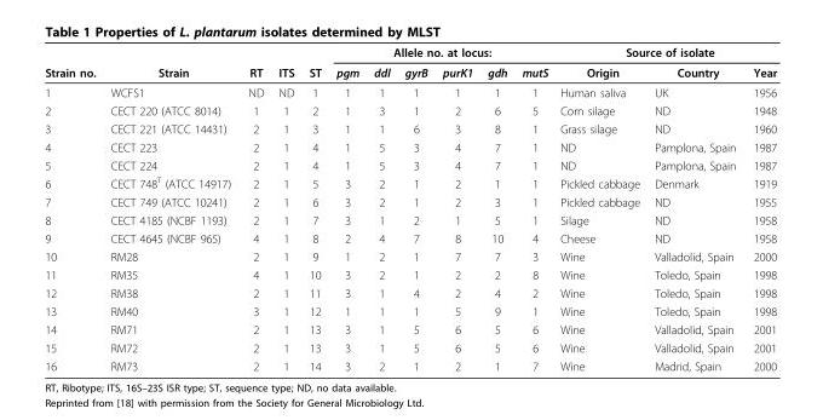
<table><thead><tr><td rowspan="2">Strain no.</td><td rowspan="2">Strain</td><td rowspan="2">RT</td><td rowspan="2">ITS</td><td rowspan="2">ST</td><td colspan="6">Allele no. at locus:</td><td colspan="3">Source of isolate</td></tr><tr><td>pgm</td><td>ddl</td><td>gyrB</td><td>purK1</td><td>gdh</td><td>mutS</td><td>Origin</td><td>Country</td><td>Year</td></tr></thead><tbody><tr><td>1</td><td>WCFS1</td><td>ND</td><td>ND</td><td>1</td><td>1</td><td>1</td><td>1</td><td>1</td><td>1</td><td>1</td><td>Human saliva</td><td>UK</td><td>1956</td></tr><tr><td>2</td><td>CECT 220 (ATCC 8014)</td><td>1</td><td>1</td><td>2</td><td>1</td><td>3</td><td>1</td><td>2</td><td>6</td><td>5</td><td>Corn silage</td><td>ND</td><td>1948</td></tr><tr><td>3</td><td>CECT 221 (ATCC 14431)</td><td>2</td><td>1</td><td>3</td><td>1</td><td>1</td><td>6</td><td>3</td><td>8</td><td>1</td><td>Grass silage</td><td>ND</td><td>1960</td></tr><tr><td>4</td><td>CECT 223</td><td>2</td><td>1</td><td>4</td><td>1</td><td>5</td><td>3</td><td>4</td><td>7</td><td>1</td><td>ND</td><td>Pamplona, Spain</td><td>1987</td></tr><tr><td>5</td><td>CECT 224</td><td>2</td><td>1</td><td>4</td><td>1</td><td>5</td><td>3</td><td>4</td><td>7</td><td>1</td><td>ND</td><td>Pamplona, Spain</td><td>1987</td></tr><tr><td>6</td><td>CECT 748<sup>T</sup> (ATCC 14917)</td><td>2</td><td>1</td><td>5</td><td>3</td><td>2</td><td>1</td><td>2</td><td>1</td><td>1</td><td>Pickled cabbage</td><td>Denmark</td><td>1919</td></tr><tr><td>7</td><td>CECT 749 (ATCC 10241)</td><td>2</td><td>1</td><td>6</td><td>3</td><td>2</td><td>1</td><td>2</td><td>3</td><td>1</td><td>Pickled cabbage</td><td>ND</td><td>1955</td></tr><tr><td>8</td><td>CECT 4185 (NCBF 1193)</td><td>2</td><td>1</td><td>7</td><td>3</td><td>1</td><td>2</td><td>1</td><td>5</td><td>1</td><td>Silage</td><td>ND</td><td>1958</td></tr><tr><td>9</td><td>CECT 4645 (NCBF 965)</td><td>4</td><td>1</td><td>8</td><td>2</td><td>4</td><td>7</td><td>8</td><td>10</td><td>4</td><td>Cheese</td><td>ND</td><td>1958</td></tr><tr><td>10</td><td>RM28</td><td>2</td><td>1</td><td>9</td><td>1</td><td>2</td><td>1</td><td>7</td><td>7</td><td>3</td><td>Wine</td><td>Valladolid, Spain</td><td>2000</td></tr><tr><td>11</td><td>RM35</td><td>4</td><td>1</td><td>10</td><td>3</td><td>2</td><td>1</td><td>2</td><td>2</td><td>8</td><td>Wine</td><td>Toledo, Spain</td><td>1998</td></tr><tr><td>12</td><td>RM38</td><td>2</td><td>1</td><td>11</td><td>3</td><td>1</td><td>4</td><td>2</td><td>4</td><td>2</td><td>Wine</td><td>Toledo, Spain</td><td>1998</td></tr><tr><td>13</td><td>RM40</td><td>3</td><td>1</td><td>12</td><td>1</td><td>1</td><td>1</td><td>5</td><td>9</td><td>1</td><td>Wine</td><td>Toledo, Spain</td><td>1998</td></tr><tr><td>14</td><td>RM71</td><td>2</td><td>1</td><td>13</td><td>3</td><td>1</td><td>5</td><td>6</td><td>5</td><td>6</td><td>Wine</td><td>Valladolid, Spain</td><td>2001</td></tr><tr><td>15</td><td>RM72</td><td>2</td><td>1</td><td>13</td><td>3</td><td>1</td><td>5</td><td>6</td><td>5</td><td>6</td><td>Wine</td><td>Valladolid, Spain</td><td>2001</td></tr><tr><td>16</td><td>RM73</td><td>2</td><td>1</td><td>14</td><td>3</td><td>2</td><td>1</td><td>2</td><td>1</td><td>7</td><td>Wine</td><td>Madrid, Spain</td><td>2000</td></tr></tbody></table>